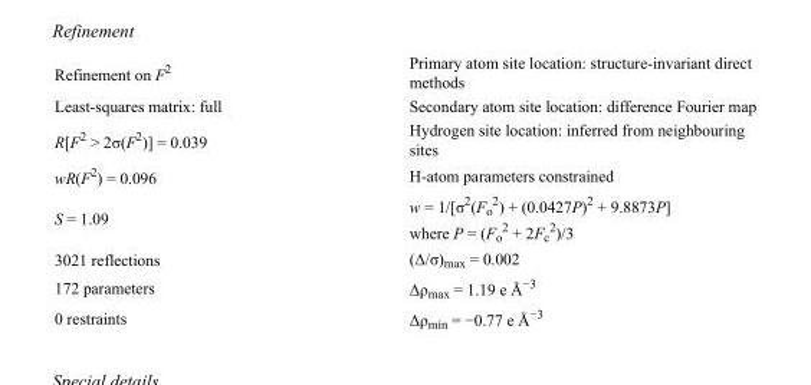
<table><tbody><tr><td>Refinement on F<sup>2</sup></td><td>Primary atom site location: structure-invariant direct methods</td></tr><tr><td>Least-squares matrix: full</td><td>Secondary atom site location: difference Fourier map</td></tr><tr><td>R[F<sup>2</sup> &gt; 2σ(F<sup>2</sup>)] = 0.039</td><td>Hydrogen site location: inferred from neighbouring sites</td></tr><tr><td>wR(F<sup>2</sup>) = 0.096</td><td>H-atom parameters constrained</td></tr><tr><td>S = 1.09</td><td>w = 1/[σ<sup>2</sup>(F<sub>o</sub> <sup>2</sup>) + (0.0427P)<sup>2</sup> + 9.8873P] where P = (F<sub>o</sub> <sup>2</sup> + 2F<sub>c</sub> <sup>2</sup>)/3</td></tr><tr><td>3021 reflections</td><td>(Δ/σ)<sub>max</sub> = 0.002</td></tr><tr><td>172 parameters</td><td>Δρ<sub>max</sub> = 1.19 e Å<sup>−3</sup></td></tr><tr><td>0 restraints</td><td>Δρ<sub>min</sub> = −0.77 e Å<sup>−3</sup></td></tr></tbody></table>